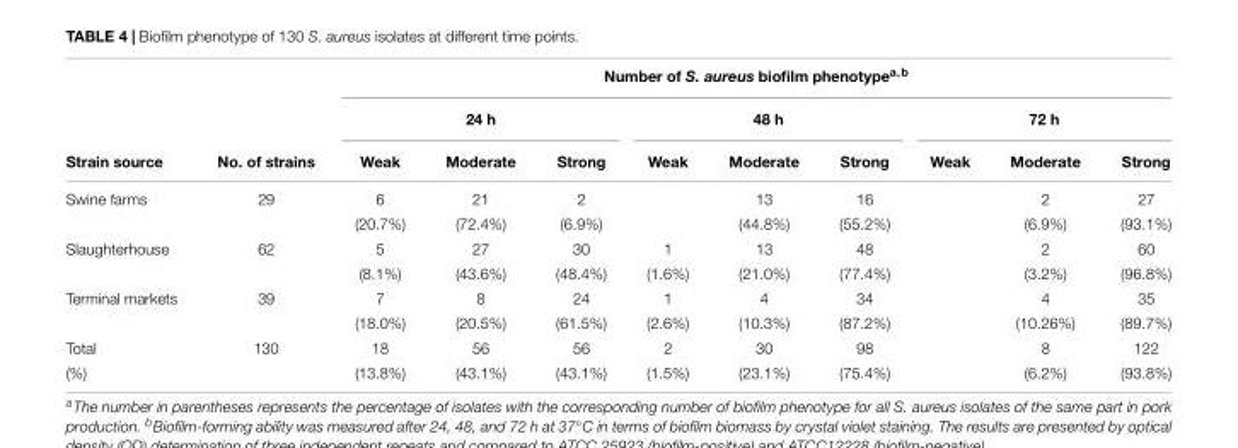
<table><thead><tr><td rowspan="3">Strain source</td><td rowspan="3">No. of strains</td><td colspan="9">Number of S. aureus biofilm phenotype<sup>a,b</sup></td></tr><tr><td colspan="3">24 h</td><td colspan="3">48 h</td><td colspan="3">72 h</td></tr><tr><td>Weak</td><td>Moderate</td><td>Strong</td><td>Weak</td><td>Moderate</td><td>Strong</td><td>Weak</td><td>Moderate</td><td>Strong</td></tr></thead><tbody><tr><td rowspan="2">Swine farms</td><td>29</td><td>6</td><td>21</td><td>2</td><td></td><td>13</td><td>16</td><td></td><td>2</td><td>27</td></tr><tr><td></td><td>(20.7%)</td><td>(72.4%)</td><td>(6.9%)</td><td></td><td>(44.8%)</td><td>(55.2%)</td><td></td><td>(6.9%)</td><td>(93.1%)</td></tr><tr><td rowspan="2">Slaughterhouse</td><td>62</td><td>5</td><td>27</td><td>30</td><td>1</td><td>13</td><td>48</td><td></td><td>2</td><td>60</td></tr><tr><td></td><td>(8.1%)</td><td>(43.6%)</td><td>(48.4%)</td><td>(1.6%)</td><td>(21.0%)</td><td>(77.4%)</td><td></td><td>(3.2%)</td><td>(96.8%)</td></tr><tr><td rowspan="2">Terminal markets</td><td>39</td><td>7</td><td>8</td><td>24</td><td>1</td><td>4</td><td>34</td><td></td><td>4</td><td>35</td></tr><tr><td></td><td>(18.0%)</td><td>(20.5%)</td><td>(61.5%)</td><td>(2.6%)</td><td>(10.3%)</td><td>(87.2%)</td><td></td><td>(10.26%)</td><td>(89.7%)</td></tr><tr><td>Total</td><td>130</td><td>18</td><td>56</td><td>56</td><td>2</td><td>30</td><td>98</td><td></td><td>8</td><td>122</td></tr><tr><td>(%)</td><td></td><td>(13.8%)</td><td>(43.1%)</td><td>(43.1%)</td><td>(1.5%)</td><td>(23.1%)</td><td>(75.4%)</td><td></td><td>(6.2%)</td><td>(93.8%)</td></tr></tbody></table>